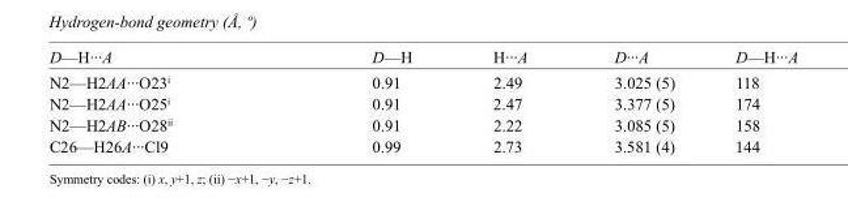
<table><tbody><tr><td>D—H···A</td><td>D—H</td><td>H···A</td><td>D···A</td><td>D—H···A</td></tr><tr><td>N2—H2AA···O23<sup>i</sup></td><td>0.91</td><td>2.49</td><td>3.025 (5)</td><td>118</td></tr><tr><td>N2—H2AA···O25<sup>i</sup></td><td>0.91</td><td>2.47</td><td>3.377 (5)</td><td>174</td></tr><tr><td>N2—H2AB···O28<sup>ii</sup></td><td>0.91</td><td>2.22</td><td>3.085 (5)</td><td>158</td></tr><tr><td>C26—H26A···Cl9</td><td>0.99</td><td>2.73</td><td>3.581 (4)</td><td>144</td></tr></tbody></table>